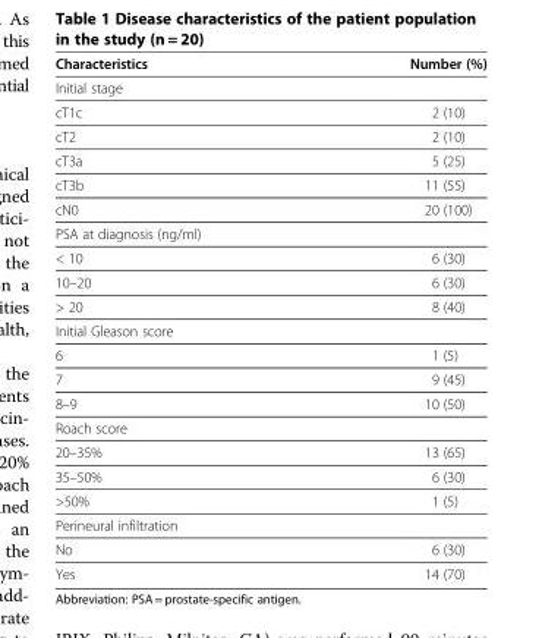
<table><thead><tr><td>Characteristics</td><td>Number (%)</td></tr></thead><tbody><tr><td colspan="2">Initial stage</td></tr><tr><td>cT1c</td><td>2 (10)</td></tr><tr><td>cT2</td><td>2 (10)</td></tr><tr><td>cT3a</td><td>5 (25)</td></tr><tr><td>cT3b</td><td>11 (55)</td></tr><tr><td>cN0</td><td>20 (100)</td></tr><tr><td colspan="2">PSA at diagnosis (ng/ml)</td></tr><tr><td>&lt; 10</td><td>6 (30)</td></tr><tr><td>10–20</td><td>6 (30)</td></tr><tr><td>&gt; 20</td><td>8 (40)</td></tr><tr><td colspan="2">Initial Gleason score</td></tr><tr><td>6</td><td>1 (5)</td></tr><tr><td>7</td><td>9 (45)</td></tr><tr><td>8–9</td><td>10 (50)</td></tr><tr><td colspan="2">Roach score</td></tr><tr><td>20–35%</td><td>13 (65)</td></tr><tr><td>35–50%</td><td>6 (30)</td></tr><tr><td>&gt;50%</td><td>1 (5)</td></tr><tr><td colspan="2">Perineural infiltration</td></tr><tr><td>No</td><td>6 (30)</td></tr><tr><td>Yes</td><td>14 (70)</td></tr></tbody></table>